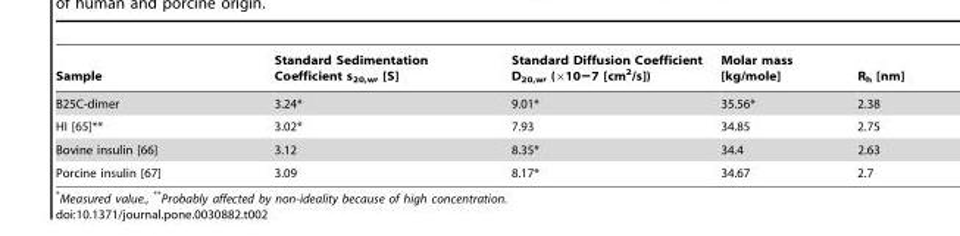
<table><thead><tr><td>Sample</td><td>Standard Sedimentation Coefficient s<sub>20,w</sub>, [S]</td><td>Standard Diffusion Coefficient D<sub>20,w</sub>, (×10−7 [cm<sup>2</sup>/s])</td><td>Molar mass [kg/mole]</td><td>R<sub>h</sub> [nm]</td></tr></thead><tbody><tr><td>B25C-dimer</td><td>3.24*</td><td>9.01*</td><td>35.56*</td><td>2.38</td></tr><tr><td>HI [65]**</td><td>3.02*</td><td>7.93</td><td>34.85</td><td>2.75</td></tr><tr><td>Bovine insulin [66]</td><td>3.12</td><td>8.35*</td><td>34.4</td><td>2.63</td></tr><tr><td>Porcine insulin [67]</td><td>3.09</td><td>8.17*</td><td>34.67</td><td>2.7</td></tr></tbody></table>